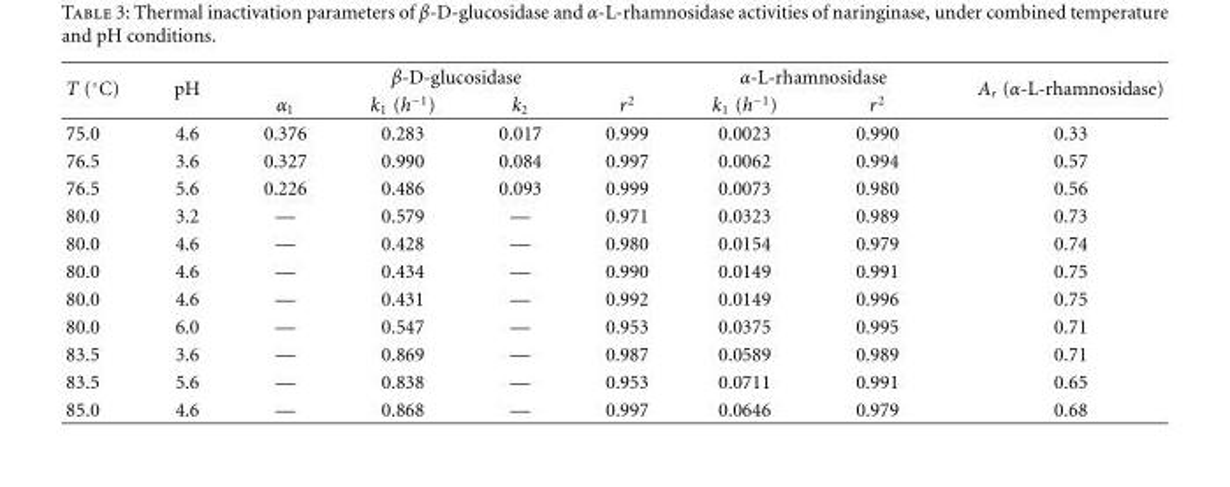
<table><thead><tr><td rowspan="2">T (◦C)</td><td rowspan="2">pH</td><td colspan="4">β-D-glucosidase</td><td colspan="2">α-L-rhamnosidase</td><td rowspan="2">A<sub>r</sub> (α-L-rhamnosidase)</td></tr><tr><td>α<sub>1</sub></td><td>k<sub>1</sub> (h<sup>−1</sup>)</td><td>k<sub>2</sub></td><td>r<sup>2</sup></td><td>k<sub>1</sub> (h<sup>−1</sup>)</td><td>r<sup>2</sup></td></tr></thead><tbody><tr><td>75.0</td><td>4.6</td><td>0.376</td><td>0.283</td><td>0.017</td><td>0.999</td><td>0.0023</td><td>0.990</td><td>0.33</td></tr><tr><td>76.5</td><td>3.6</td><td>0.327</td><td>0.990</td><td>0.084</td><td>0.997</td><td>0.0062</td><td>0.994</td><td>0.57</td></tr><tr><td>76.5</td><td>5.6</td><td>0.226</td><td>0.486</td><td>0.093</td><td>0.999</td><td>0.0073</td><td>0.980</td><td>0.56</td></tr><tr><td>80.0</td><td>3.2</td><td>—</td><td>0.579</td><td>—</td><td>0.971</td><td>0.0323</td><td>0.989</td><td>0.73</td></tr><tr><td>80.0</td><td>4.6</td><td>—</td><td>0.428</td><td>—</td><td>0.980</td><td>0.0154</td><td>0.979</td><td>0.74</td></tr><tr><td>80.0</td><td>4.6</td><td>—</td><td>0.434</td><td>—</td><td>0.990</td><td>0.0149</td><td>0.991</td><td>0.75</td></tr><tr><td>80.0</td><td>4.6</td><td>—</td><td>0.431</td><td>—</td><td>0.992</td><td>0.0149</td><td>0.996</td><td>0.75</td></tr><tr><td>80.0</td><td>6.0</td><td>—</td><td>0.547</td><td>—</td><td>0.953</td><td>0.0375</td><td>0.995</td><td>0.71</td></tr><tr><td>83.5</td><td>3.6</td><td>—</td><td>0.869</td><td>—</td><td>0.987</td><td>0.0589</td><td>0.989</td><td>0.71</td></tr><tr><td>83.5</td><td>5.6</td><td>—</td><td>0.838</td><td>—</td><td>0.953</td><td>0.0711</td><td>0.991</td><td>0.65</td></tr><tr><td>85.0</td><td>4.6</td><td>—</td><td>0.868</td><td>—</td><td>0.997</td><td>0.0646</td><td>0.979</td><td>0.68</td></tr></tbody></table>